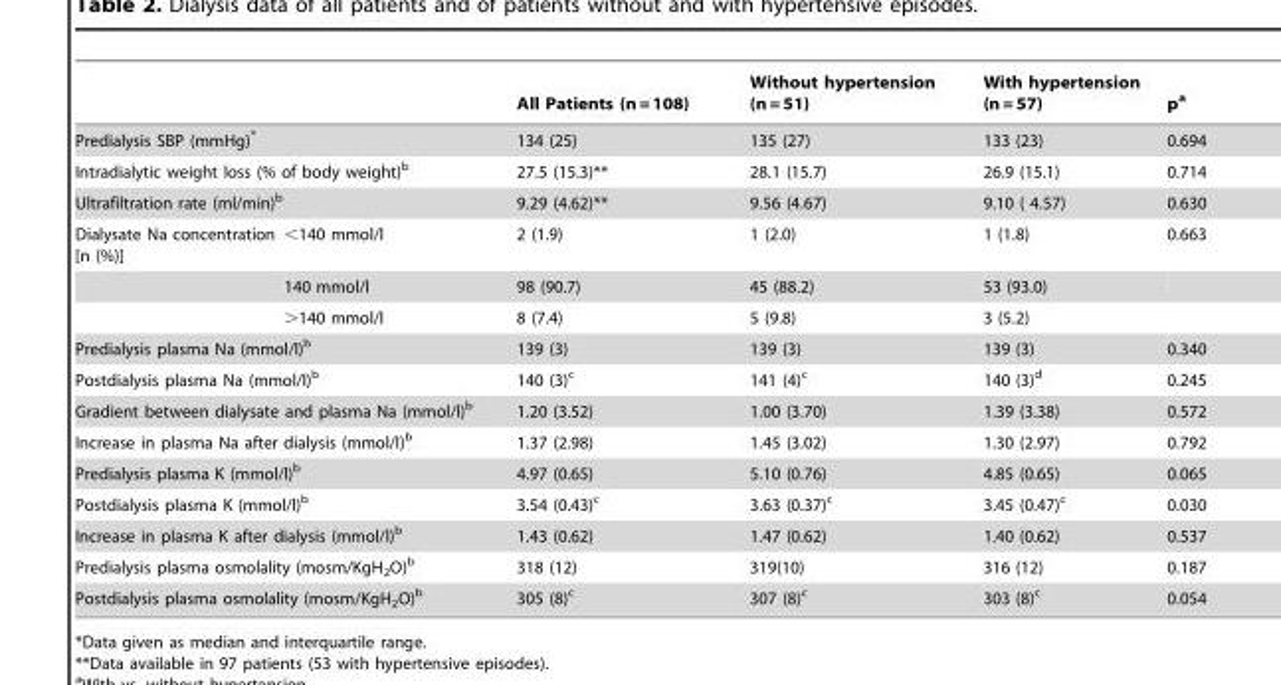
<table><thead><tr><td></td><td></td><td>All Patients (n = 108)</td><td>Without hypertension (n = 51)</td><td>With hypertension (n = 57)</td><td>p<sup>a</sup></td></tr></thead><tbody><tr><td colspan="2">Predialysis SBP (mmHg)*</td><td>134 (25)</td><td>135 (27)</td><td>133 (23)</td><td>0.694</td></tr><tr><td colspan="2">Intradialytic weight loss (% of body weight)<sup>b</sup></td><td>27.5 (15.3)**</td><td>28.1 (15.7)</td><td>26.9 (15.1)</td><td>0.714</td></tr><tr><td colspan="2">Ultrafiltration rate (ml/min)<sup>b</sup></td><td>9.29 (4.62)**</td><td>9.56 (4.67)</td><td>9.10 ( 4.57)</td><td>0.630</td></tr><tr><td rowspan="3">Dialysate Na concentration [n (%)]</td><td>&lt;140 mmol/l</td><td>2 (1.9)</td><td>1 (2.0)</td><td>1 (1.8)</td><td>0.663</td></tr><tr><td>140 mmol/l</td><td>98 (90.7)</td><td>45 (88.2)</td><td>53 (93.0)</td><td></td></tr><tr><td>&gt;140 mmol/l</td><td>8 (7.4)</td><td>5 (9.8)</td><td>3 (5.2)</td><td></td></tr><tr><td colspan="2">Predialysis plasma Na (mmol/l)<sup>b</sup></td><td>139 (3)</td><td>139 (3)</td><td>139 (3)</td><td>0.340</td></tr><tr><td colspan="2">Postdialysis plasma Na (mmol/l)<sup>b</sup></td><td>140 (3)<sup>c</sup></td><td>141 (4)<sup>c</sup></td><td>140 (3)<sup>d</sup></td><td>0.245</td></tr><tr><td colspan="2">Gradient between dialysate and plasma Na (mmol/l)<sup>b</sup></td><td>1.20 (3.52)</td><td>1.00 (3.70)</td><td>1.39 (3.38)</td><td>0.572</td></tr><tr><td colspan="2">Increase in plasma Na after dialysis (mmol/l)<sup>b</sup></td><td>1.37 (2.98)</td><td>1.45 (3.02)</td><td>1.30 (2.97)</td><td>0.792</td></tr><tr><td colspan="2">Predialysis plasma K (mmol/l)<sup>b</sup></td><td>4.97 (0.65)</td><td>5.10 (0.76)</td><td>4.85 (0.65)</td><td>0.065</td></tr><tr><td colspan="2">Postdialysis plasma K (mmol/l)<sup>b</sup></td><td>3.54 (0.43)<sup>c</sup></td><td>3.63 (0.37)<sup>c</sup></td><td>3.45 (0.47)<sup>c</sup></td><td>0.030</td></tr><tr><td colspan="2">Increase in plasma K after dialysis (mmol/l)<sup>b</sup></td><td>1.43 (0.62)</td><td>1.47 (0.62)</td><td>1.40 (0.62)</td><td>0.537</td></tr><tr><td colspan="2">Predialysis plasma osmolality (mosm/KgH<sub>2</sub>O)<sup>b</sup></td><td>318 (12)</td><td>319(10)</td><td>316 (12)</td><td>0.187</td></tr><tr><td colspan="2">Postdialysis plasma osmolality (mosm/KgH<sub>2</sub>O)<sup>b</sup></td><td>305 (8)<sup>c</sup></td><td>307 (8)<sup>c</sup></td><td>303 (8)<sup>c</sup></td><td>0.054</td></tr></tbody></table>